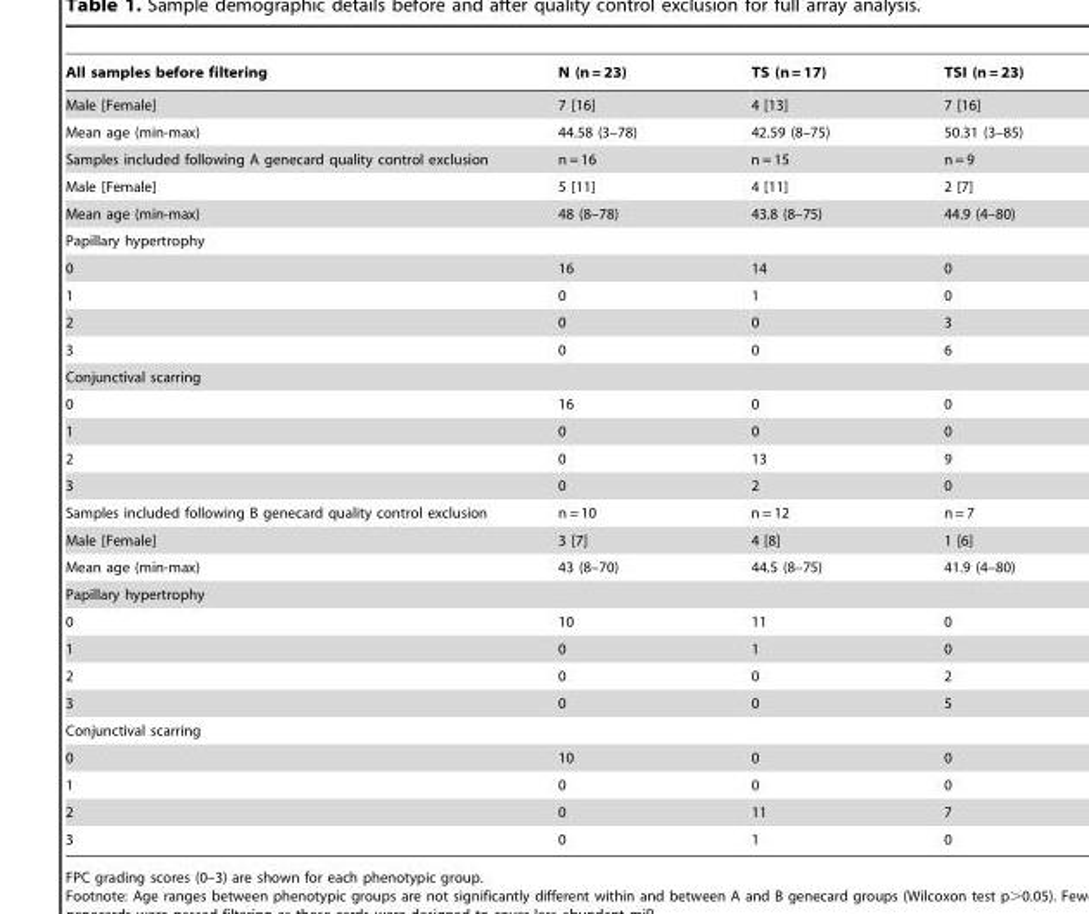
<table><thead><tr><td>All samples before filtering</td><td>N (n = 23)</td><td>TS (n = 17)</td><td>TSI (n = 23)</td></tr></thead><tbody><tr><td>Male [Female]</td><td>7 [16]</td><td>4 [13]</td><td>7 [16]</td></tr><tr><td>Mean age (min-max)</td><td>44.58 (3–78)</td><td>42.59 (8–75)</td><td>50.31 (3–85)</td></tr><tr><td>Samples included following A genecard quality control exclusion</td><td>n = 16</td><td>n = 15</td><td>n = 9</td></tr><tr><td>Male [Female]</td><td>5 [11]</td><td>4 [11]</td><td>2 [7]</td></tr><tr><td>Mean age (min-max)</td><td>48 (8–78)</td><td>43.8 (8–75)</td><td>44.9 (4–80)</td></tr><tr><td colspan="4">Papillary hypertrophy</td></tr><tr><td>0</td><td>16</td><td>14</td><td>0</td></tr><tr><td>1</td><td>0</td><td>1</td><td>0</td></tr><tr><td>2</td><td>0</td><td>0</td><td>3</td></tr><tr><td>3</td><td>0</td><td>0</td><td>6</td></tr><tr><td colspan="4">Conjunctival scarring</td></tr><tr><td>0</td><td>16</td><td>0</td><td>0</td></tr><tr><td>1</td><td>0</td><td>0</td><td>0</td></tr><tr><td>2</td><td>0</td><td>13</td><td>9</td></tr><tr><td>3</td><td>0</td><td>2</td><td>0</td></tr><tr><td>Samples included following B genecard quality control exclusion</td><td>n = 10</td><td>n = 12</td><td>n = 7</td></tr><tr><td>Male [Female]</td><td>3 [7]</td><td>4 [8]</td><td>1 [6]</td></tr><tr><td>Mean age (min-max)</td><td>43 (8–70)</td><td>44.5 (8–75)</td><td>41.9 (4–80)</td></tr><tr><td colspan="4">Papillary hypertrophy</td></tr><tr><td>0</td><td>10</td><td>11</td><td>0</td></tr><tr><td>1</td><td>0</td><td>1</td><td>0</td></tr><tr><td>2</td><td>0</td><td>0</td><td>2</td></tr><tr><td>3</td><td>0</td><td>0</td><td>5</td></tr><tr><td colspan="4">Conjunctival scarring</td></tr><tr><td>0</td><td>10</td><td>0</td><td>0</td></tr><tr><td>1</td><td>0</td><td>0</td><td>0</td></tr><tr><td>2</td><td>0</td><td>11</td><td>7</td></tr><tr><td>3</td><td>0</td><td>1</td><td>0</td></tr></tbody></table>